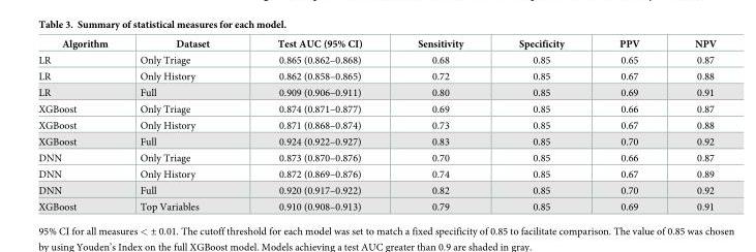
<table><thead><tr><td>Algorithm</td><td>Dataset</td><td>Test AUC (95% CI)</td><td>Sensitivity</td><td>Specificity</td><td>PPV</td><td>NPV</td></tr></thead><tbody><tr><td>LR</td><td>Only Triage</td><td>0.865 (0.862–0.868)</td><td>0.68</td><td>0.85</td><td>0.65</td><td>0.87</td></tr><tr><td>LR</td><td>Only History</td><td>0.862 (0.858–0.865)</td><td>0.72</td><td>0.85</td><td>0.67</td><td>0.88</td></tr><tr><td>LR</td><td>Full</td><td>0.909 (0.906–0.911)</td><td>0.80</td><td>0.85</td><td>0.69</td><td>0.91</td></tr><tr><td>XGBoost</td><td>Only Triage</td><td>0.874 (0.871–0.877)</td><td>0.69</td><td>0.85</td><td>0.66</td><td>0.87</td></tr><tr><td>XGBoost</td><td>Only History</td><td>0.871 (0.868–0.874)</td><td>0.73</td><td>0.85</td><td>0.67</td><td>0.88</td></tr><tr><td>XGBoost</td><td>Full</td><td>0.924 (0.922–0.927)</td><td>0.83</td><td>0.85</td><td>0.70</td><td>0.92</td></tr><tr><td>DNN</td><td>Only Triage</td><td>0.873 (0.870–0.876)</td><td>0.70</td><td>0.85</td><td>0.66</td><td>0.87</td></tr><tr><td>DNN</td><td>Only History</td><td>0.872 (0.869–0.876)</td><td>0.74</td><td>0.85</td><td>0.67</td><td>0.89</td></tr><tr><td>DNN</td><td>Full</td><td>0.920 (0.917–0.922)</td><td>0.82</td><td>0.85</td><td>0.70</td><td>0.92</td></tr><tr><td>XGBoost</td><td>Top Variables</td><td>0.910 (0.908–0.913)</td><td>0.79</td><td>0.85</td><td>0.69</td><td>0.91</td></tr></tbody></table>